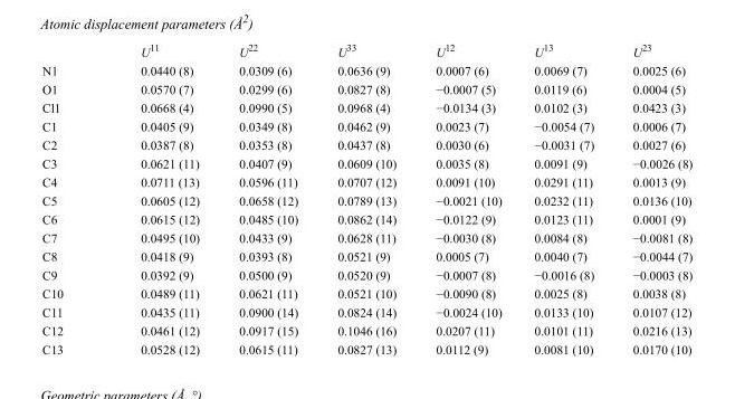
<table><thead><tr><td></td><td>U<sup>11</sup></td><td>U<sup>22</sup></td><td>U<sup>33</sup></td><td>U<sup>12</sup></td><td>U<sup>13</sup></td><td>U<sup>23</sup></td></tr></thead><tbody><tr><td>N1</td><td>0.0440 (8)</td><td>0.0309 (6)</td><td>0.0636 (9)</td><td>0.0007 (6)</td><td>0.0069 (7)</td><td>0.0025 (6)</td></tr><tr><td>O1</td><td>0.0570 (7)</td><td>0.0299 (6)</td><td>0.0827 (8)</td><td>−0.0007 (5)</td><td>0.0119 (6)</td><td>0.0004 (5)</td></tr><tr><td>Cl1</td><td>0.0668 (4)</td><td>0.0990 (5)</td><td>0.0968 (4)</td><td>−0.0134 (3)</td><td>0.0102 (3)</td><td>0.0423 (3)</td></tr><tr><td>C1</td><td>0.0405 (9)</td><td>0.0349 (8)</td><td>0.0462 (9)</td><td>0.0023 (7)</td><td>−0.0054 (7)</td><td>0.0006 (7)</td></tr><tr><td>C2</td><td>0.0387 (8)</td><td>0.0353 (8)</td><td>0.0437 (8)</td><td>0.0030 (6)</td><td>−0.0031 (7)</td><td>0.0027 (6)</td></tr><tr><td>C3</td><td>0.0621 (11)</td><td>0.0407 (9)</td><td>0.0609 (10)</td><td>0.0035 (8)</td><td>0.0091 (9)</td><td>−0.0026 (8)</td></tr><tr><td>C4</td><td>0.0711 (13)</td><td>0.0596 (11)</td><td>0.0707 (12)</td><td>0.0091 (10)</td><td>0.0291 (11)</td><td>0.0013 (9)</td></tr><tr><td>C5</td><td>0.0605 (12)</td><td>0.0658 (12)</td><td>0.0789 (13)</td><td>−0.0021 (10)</td><td>0.0232 (11)</td><td>0.0136 (10)</td></tr><tr><td>C6</td><td>0.0615 (12)</td><td>0.0485 (10)</td><td>0.0862 (14)</td><td>−0.0122 (9)</td><td>0.0123 (11)</td><td>0.0001 (9)</td></tr><tr><td>C7</td><td>0.0495 (10)</td><td>0.0433 (9)</td><td>0.0628 (11)</td><td>−0.0030 (8)</td><td>0.0084 (8)</td><td>−0.0081 (8)</td></tr><tr><td>C8</td><td>0.0418 (9)</td><td>0.0393 (8)</td><td>0.0521 (9)</td><td>0.0005 (7)</td><td>0.0040 (7)</td><td>−0.0044 (7)</td></tr><tr><td>C9</td><td>0.0392 (9)</td><td>0.0500 (9)</td><td>0.0520 (9)</td><td>−0.0007 (8)</td><td>−0.0016 (8)</td><td>−0.0003 (8)</td></tr><tr><td>C10</td><td>0.0489 (11)</td><td>0.0621 (11)</td><td>0.0521 (10)</td><td>−0.0090 (8)</td><td>0.0025 (8)</td><td>0.0038 (8)</td></tr><tr><td>C11</td><td>0.0435 (11)</td><td>0.0900 (14)</td><td>0.0824 (14)</td><td>−0.0024 (10)</td><td>0.0133 (10)</td><td>0.0107 (12)</td></tr><tr><td>C12</td><td>0.0461 (12)</td><td>0.0917 (15)</td><td>0.1046 (16)</td><td>0.0207 (11)</td><td>0.0101 (11)</td><td>0.0216 (13)</td></tr><tr><td>C13</td><td>0.0528 (12)</td><td>0.0615 (11)</td><td>0.0827 (13)</td><td>0.0112 (9)</td><td>0.0081 (10)</td><td>0.0170 (10)</td></tr></tbody></table>